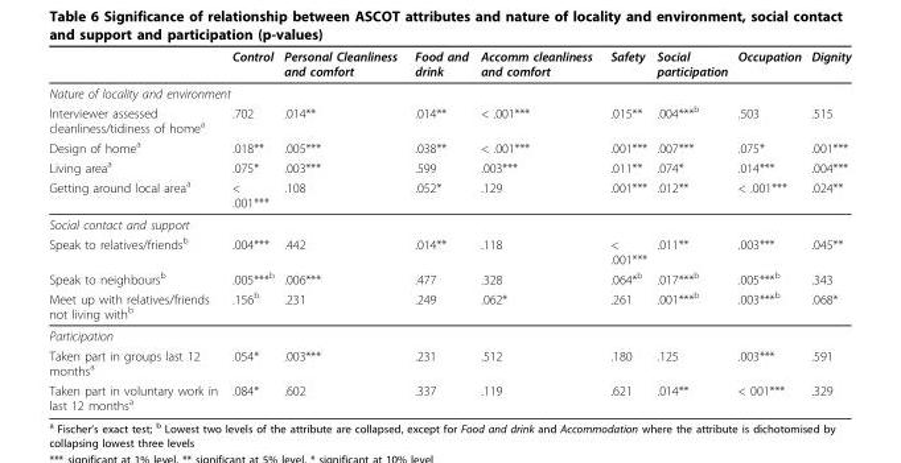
<table><thead><tr><td></td><td>Control</td><td>Personal Cleanliness and comfort</td><td>Food and drink</td><td>Accomm cleanliness and comfort</td><td>Safety</td><td>Social participation</td><td>Occupation</td><td>Dignity</td></tr></thead><tbody><tr><td colspan="9">Nature of locality and environment</td></tr><tr><td>Interviewer assessed cleanliness/tidiness of home<sup>a</sup></td><td>.702</td><td>.014**</td><td>.014**</td><td>&lt; .001***</td><td>.015**</td><td>.004***<sup>b</sup></td><td>.503</td><td>.515</td></tr><tr><td>Design of home<sup>a</sup></td><td>.018**</td><td>.005***</td><td>.038**</td><td>&lt; .001***</td><td>.001***</td><td>.007***</td><td>.075*</td><td>.001***</td></tr><tr><td>Living area<sup>a</sup></td><td>.075*</td><td>.003***</td><td>.599</td><td>.003***</td><td>.011**</td><td>.074*</td><td>.014***</td><td>.004***</td></tr><tr><td>Getting around local area<sup>a</sup></td><td>&lt; .001***</td><td>.108</td><td>.052*</td><td>.129</td><td>.001***</td><td>.012**</td><td>&lt; .001***</td><td>.024**</td></tr><tr><td colspan="9">Social contact and support</td></tr><tr><td>Speak to relatives/friends<sup>b</sup></td><td>.004***</td><td>.442</td><td>.014**</td><td>.118</td><td>&lt; .001***</td><td>.011**</td><td>.003***</td><td>.045**</td></tr><tr><td>Speak to neighbours<sup>b</sup></td><td>.005***<sup>b</sup></td><td>.006***</td><td>.477</td><td>.328</td><td>.064*<sup>b</sup></td><td>.017***<sup>b</sup></td><td>.005***<sup>b</sup></td><td>.343</td></tr><tr><td>Meet up with relatives/friends not living with<sup>b</sup></td><td>.156<sup>b</sup></td><td>.231</td><td>.249</td><td>.062*</td><td>.261</td><td>.001***<sup>b</sup></td><td>.003***<sup>b</sup></td><td>.068*</td></tr><tr><td colspan="9">Participation</td></tr><tr><td>Taken part in groups last 12 months<sup>a</sup></td><td>.054*</td><td>.003***</td><td>.231</td><td>.512</td><td>.180</td><td>.125</td><td>.003***</td><td>.591</td></tr><tr><td>Taken part in voluntary work in last 12 months<sup>a</sup></td><td>.084*</td><td>.602</td><td>.337</td><td>.119</td><td>.621</td><td>.014**</td><td>&lt; 001***</td><td>.329</td></tr></tbody></table>